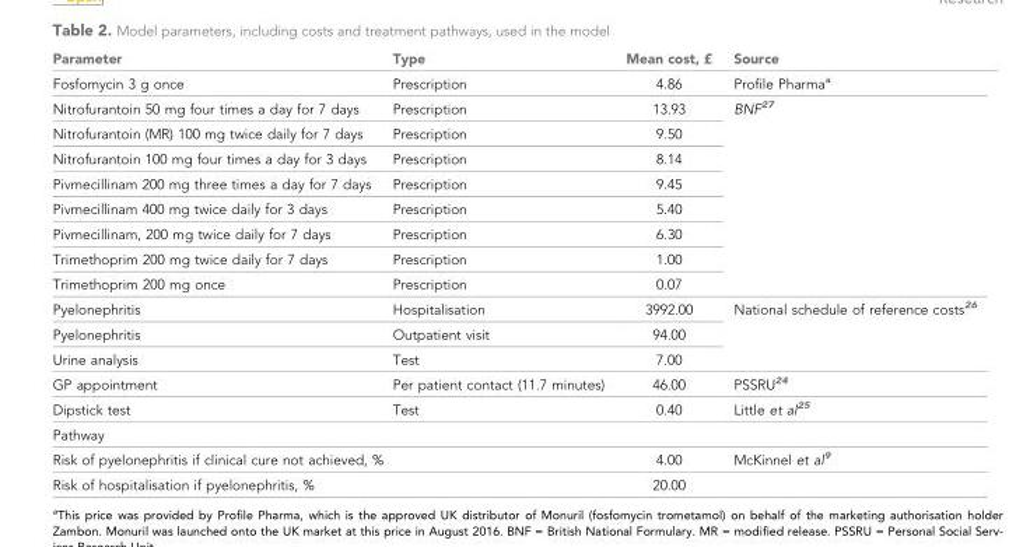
<table><thead><tr><td>Parameter</td><td>Type</td><td>Mean cost, £</td><td>Source</td></tr></thead><tbody><tr><td>Fosfomycin 3 g once</td><td>Prescription</td><td>4.86</td><td>Profile Pharma<sup>a</sup></td></tr><tr><td>Nitrofurantoin 50 mg four times a day for 7 days</td><td>Prescription</td><td>13.93</td><td rowspan="8">BNF<sup>27</sup></td></tr><tr><td>Nitrofurantoin (MR) 100 mg twice daily for 7 days</td><td>Prescription</td><td>9.50</td></tr><tr><td>Nitrofurantoin 100 mg four times a day for 3 days</td><td>Prescription</td><td>8.14</td></tr><tr><td>Pivmecillinam 200 mg three times a day for 7 days</td><td>Prescription</td><td>9.45</td></tr><tr><td>Pivmecillinam 400 mg twice daily for 3 days</td><td>Prescription</td><td>5.40</td></tr><tr><td>Pivmecillinam, 200 mg twice daily for 7 days</td><td>Prescription</td><td>6.30</td></tr><tr><td>Trimethoprim 200 mg twice daily for 7 days</td><td>Prescription</td><td>1.00</td></tr><tr><td>Trimethoprim 200 mg once</td><td>Prescription</td><td>0.07</td></tr><tr><td>Pyelonephritis</td><td>Hospitalisation</td><td>3992.00</td><td rowspan="3">National schedule of reference costs<sup>26</sup></td></tr><tr><td>Pyelonephritis</td><td>Outpatient visit</td><td>94.00</td></tr><tr><td>Urine analysis</td><td>Test</td><td>7.00</td></tr><tr><td>GP appointment</td><td>Per patient contact (11.7 minutes)</td><td>46.00</td><td>PSSRU<sup>24</sup></td></tr><tr><td>Dipstick test</td><td>Test</td><td>0.40</td><td>Little et al<sup>25</sup></td></tr><tr><td colspan="4">Pathway</td></tr><tr><td colspan="2">Risk of pyelonephritis if clinical cure not achieved, %</td><td>4.00</td><td>McKinnel et al<sup>9</sup></td></tr><tr><td colspan="2">Risk of hospitalisation if pyelonephritis, %</td><td>20.00</td><td></td></tr></tbody></table>